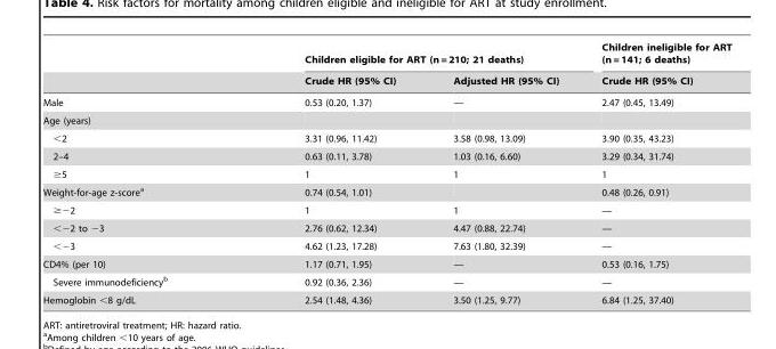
<table><thead><tr><td rowspan="2"></td><td colspan="2">Children eligible for ART (n = 210; 21 deaths)</td><td rowspan="2">Children ineligible for ART (n = 141; 6 deaths) Crude HR (95% CI)</td></tr><tr><td>Crude HR (95% CI)</td><td>Adjusted HR (95% CI)</td></tr></thead><tbody><tr><td>Male</td><td>0.53 (0.20, 1.37)</td><td>—</td><td>2.47 (0.45, 13.49)</td></tr><tr><td colspan="4">Age (years)</td></tr><tr><td>&lt;2</td><td>3.31 (0.96, 11.42)</td><td>3.58 (0.98, 13.09)</td><td>3.90 (0.35, 43.23)</td></tr><tr><td>2–4</td><td>0.63 (0.11, 3.78)</td><td>1.03 (0.16, 6.60)</td><td>3.29 (0.34, 31.74)</td></tr><tr><td>≥5</td><td>1</td><td>1</td><td>1</td></tr><tr><td>Weight-for-age z-score<sup>a</sup></td><td>0.74 (0.54, 1.01)</td><td></td><td>0.48 (0.26, 0.91)</td></tr><tr><td>≥−2</td><td>1</td><td>1</td><td>—</td></tr><tr><td>&lt;−2 to −3</td><td>2.76 (0.62, 12.34)</td><td>4.47 (0.88, 22.74)</td><td>—</td></tr><tr><td>&lt;−3</td><td>4.62 (1.23, 17.28)</td><td>7.63 (1.80, 32.39)</td><td>—</td></tr><tr><td>CD4% (per 10)</td><td>1.17 (0.71, 1.95)</td><td>—</td><td>0.53 (0.16, 1.75)</td></tr><tr><td>Severe immunodeficiency<sup>b</sup></td><td>0.92 (0.36, 2.36)</td><td>—</td><td>—</td></tr><tr><td>Hemoglobin &lt;8 g/dL</td><td>2.54 (1.48, 4.36)</td><td>3.50 (1.25, 9.77)</td><td>6.84 (1.25, 37.40)</td></tr></tbody></table>